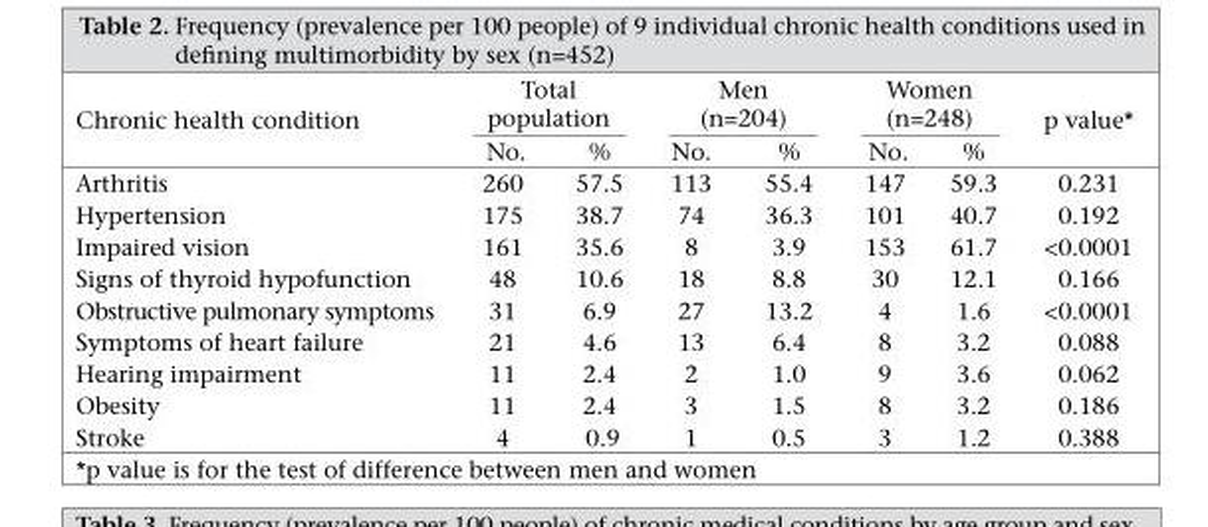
<table><thead><tr><td rowspan="2">Chronic health condition</td><td colspan="2">Total population</td><td colspan="2">Men (n=204)</td><td colspan="2">Women (n=248)</td><td rowspan="2">p value*</td></tr><tr><td>No.</td><td>%</td><td>No.</td><td>%</td><td>No.</td><td>%</td></tr></thead><tbody><tr><td>Arthritis</td><td>260</td><td>57.5</td><td>113</td><td>55.4</td><td>147</td><td>59.3</td><td>0.231</td></tr><tr><td>Hypertension</td><td>175</td><td>38.7</td><td>74</td><td>36.3</td><td>101</td><td>40.7</td><td>0.192</td></tr><tr><td>Impaired vision</td><td>161</td><td>35.6</td><td>8</td><td>3.9</td><td>153</td><td>61.7</td><td>&lt;0.0001</td></tr><tr><td>Signs of thyroid hypofunction</td><td>48</td><td>10.6</td><td>18</td><td>8.8</td><td>30</td><td>12.1</td><td>0.166</td></tr><tr><td>Obstructive pulmonary symptoms</td><td>31</td><td>6.9</td><td>27</td><td>13.2</td><td>4</td><td>1.6</td><td>&lt;0.0001</td></tr><tr><td>Symptoms of heart failure</td><td>21</td><td>4.6</td><td>13</td><td>6.4</td><td>8</td><td>3.2</td><td>0.088</td></tr><tr><td>Hearing impairment</td><td>11</td><td>2.4</td><td>2</td><td>1.0</td><td>9</td><td>3.6</td><td>0.062</td></tr><tr><td>Obesity</td><td>11</td><td>2.4</td><td>3</td><td>1.5</td><td>8</td><td>3.2</td><td>0.186</td></tr><tr><td>Stroke</td><td>4</td><td>0.9</td><td>1</td><td>0.5</td><td>3</td><td>1.2</td><td>0.388</td></tr></tbody></table>